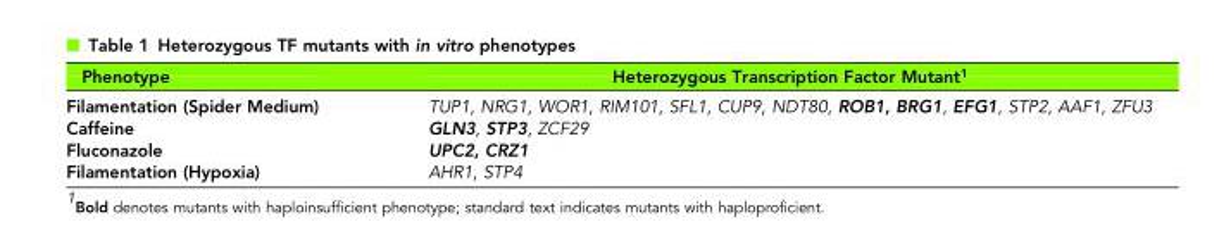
<table><thead><tr><td>Phenotype</td><td>Heterozygous Transcription Factor Mutant<sup>1</sup></td></tr></thead><tbody><tr><td>Filamentation (Spider Medium)</td><td>TUP1, NRG1, WOR1, RIM101, SFL1, CUP9, NDT80, ROB1, BRG1, EFG1, STP2, AAF1, ZFU3</td></tr><tr><td>Caffeine</td><td>GLN3, STP3, ZCF29</td></tr><tr><td>Fluconazole</td><td>UPC2, CRZ1</td></tr><tr><td>Filamentation (Hypoxia)</td><td>AHR1, STP4</td></tr></tbody></table>